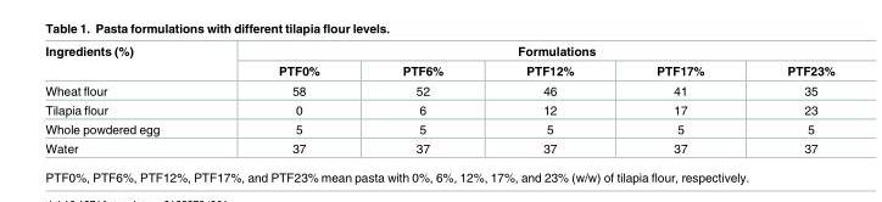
<table><thead><tr><td rowspan="2">Ingredients (%)</td><td colspan="5">Formulations</td></tr><tr><td>PTF0%</td><td>PTF6%</td><td>PTF12%</td><td>PTF17%</td><td>PTF23%</td></tr></thead><tbody><tr><td>Wheat flour</td><td>58</td><td>52</td><td>46</td><td>41</td><td>35</td></tr><tr><td>Tilapia flour</td><td>0</td><td>6</td><td>12</td><td>17</td><td>23</td></tr><tr><td>Whole powdered egg</td><td>5</td><td>5</td><td>5</td><td>5</td><td>5</td></tr><tr><td>Water</td><td>37</td><td>37</td><td>37</td><td>37</td><td>37</td></tr></tbody></table>